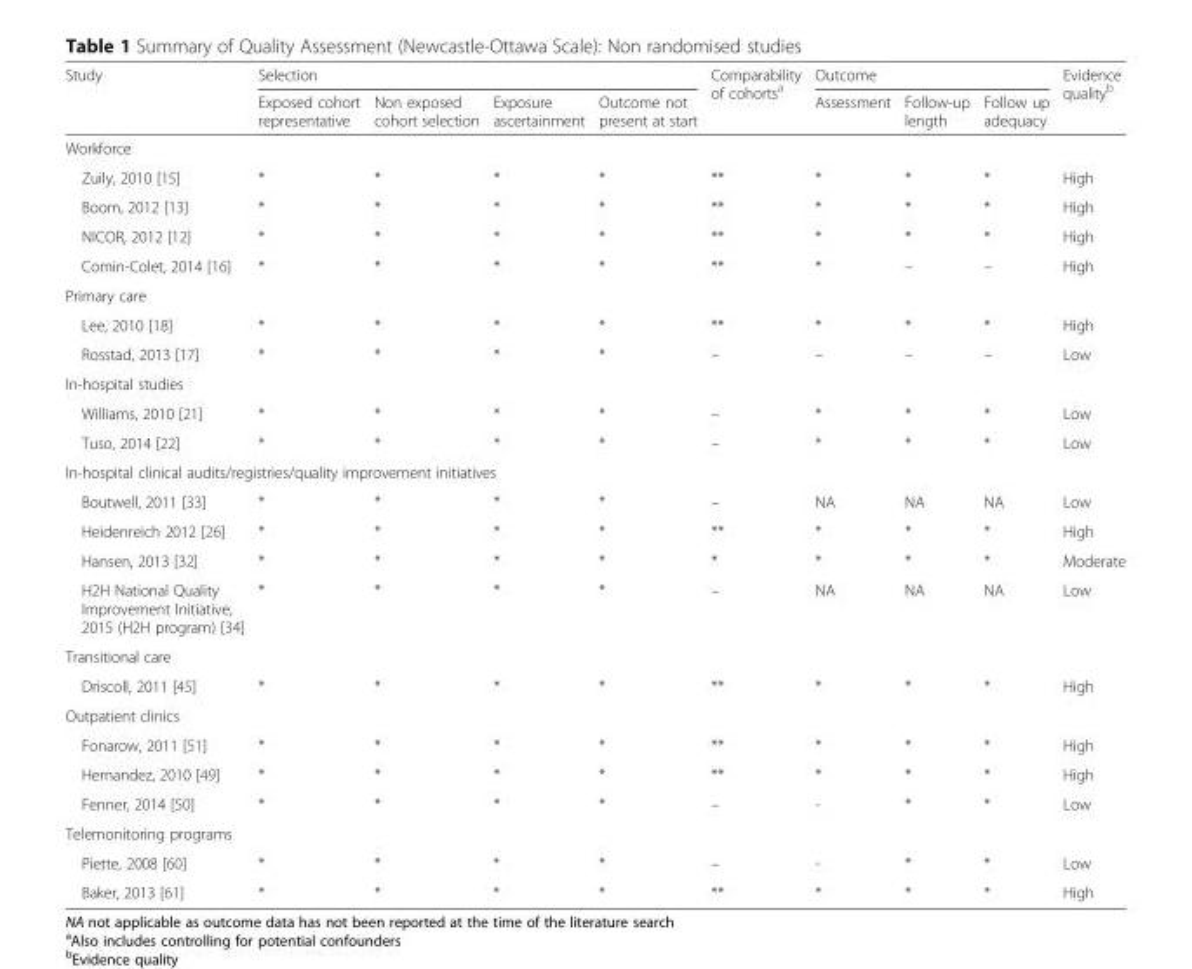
<table><thead><tr><td rowspan="2">Study</td><td colspan="4">Selection</td><td rowspan="2">Comparability of cohorts<sup>a</sup></td><td colspan="3">Outcome</td><td rowspan="2">Evidence quality<sup>b</sup></td></tr><tr><td>Exposed cohort representative</td><td>Non exposed cohort selection</td><td>Exposure ascertainment</td><td>Outcome not present at start</td><td>Assessment</td><td>Follow-up length</td><td>Follow up adequacy</td></tr></thead><tbody><tr><td colspan="10">Workforce</td></tr><tr><td>Zuily, 2010 [15]</td><td>*</td><td>*</td><td>*</td><td>*</td><td>**</td><td>*</td><td>*</td><td>*</td><td>High</td></tr><tr><td>Boom, 2012 [13]</td><td>*</td><td>*</td><td>*</td><td>*</td><td>**</td><td>*</td><td>*</td><td>*</td><td>High</td></tr><tr><td>NICOR, 2012 [12]</td><td>*</td><td>*</td><td>*</td><td>*</td><td>**</td><td>*</td><td>*</td><td>*</td><td>High</td></tr><tr><td>Comin-Colet, 2014 [16]</td><td>*</td><td>*</td><td>*</td><td>*</td><td>**</td><td>*</td><td>–</td><td>–</td><td>High</td></tr><tr><td colspan="10">Primary care</td></tr><tr><td>Lee, 2010 [18]</td><td>*</td><td>*</td><td>*</td><td>*</td><td>**</td><td>*</td><td>*</td><td>*</td><td>High</td></tr><tr><td>Rosstad, 2013 [17]</td><td>*</td><td>*</td><td>*</td><td>*</td><td>–</td><td>–</td><td>–</td><td>–</td><td>Low</td></tr><tr><td colspan="10">In-hospital studies</td></tr><tr><td>Williams, 2010 [21]</td><td>*</td><td>*</td><td>*</td><td>*</td><td>–</td><td>*</td><td>*</td><td>*</td><td>Low</td></tr><tr><td>Tuso, 2014 [22]</td><td>*</td><td>*</td><td>*</td><td>*</td><td>–</td><td>*</td><td>*</td><td>*</td><td>Low</td></tr><tr><td colspan="10">In-hospital clinical audits/registries/quality improvement initiatives</td></tr><tr><td>Boutwell, 2011 [33]</td><td>*</td><td>*</td><td>*</td><td>*</td><td>–</td><td>NA</td><td>NA</td><td>NA</td><td>Low</td></tr><tr><td>Heidenreich 2012 [26]</td><td>*</td><td>*</td><td>*</td><td>*</td><td>**</td><td>*</td><td>*</td><td>*</td><td>High</td></tr><tr><td>Hansen, 2013 [32]</td><td>*</td><td>*</td><td>*</td><td>*</td><td>*</td><td>*</td><td>*</td><td>*</td><td>Moderate</td></tr><tr><td>H2H National Quality Improvement Initiative, 2015 (H2H program) [34]</td><td>*</td><td>*</td><td>*</td><td>*</td><td>–</td><td>NA</td><td>NA</td><td>NA</td><td>Low</td></tr><tr><td colspan="10">Transitional care</td></tr><tr><td>Driscoll, 2011 [45]</td><td>*</td><td>*</td><td>*</td><td>*</td><td>**</td><td>*</td><td>*</td><td>*</td><td>High</td></tr><tr><td colspan="10">Outpatient clinics</td></tr><tr><td>Fonarow, 2011 [51]</td><td>*</td><td>*</td><td>*</td><td>*</td><td>**</td><td>*</td><td>*</td><td>*</td><td>High</td></tr><tr><td>Hernandez, 2010 [49]</td><td>*</td><td>*</td><td>*</td><td>*</td><td>**</td><td>*</td><td>*</td><td>*</td><td>High</td></tr><tr><td>Fenner, 2014 [50]</td><td>*</td><td>*</td><td>*</td><td>*</td><td>–</td><td>-</td><td>*</td><td>*</td><td>Low</td></tr><tr><td colspan="10">Telemonitoring programs</td></tr><tr><td>Piette, 2008 [60]</td><td>*</td><td>*</td><td>*</td><td>*</td><td>–</td><td>-</td><td>*</td><td>*</td><td>Low</td></tr><tr><td>Baker, 2013 [61]</td><td>*</td><td>*</td><td>*</td><td>*</td><td>**</td><td>*</td><td>*</td><td>*</td><td>High</td></tr></tbody></table>